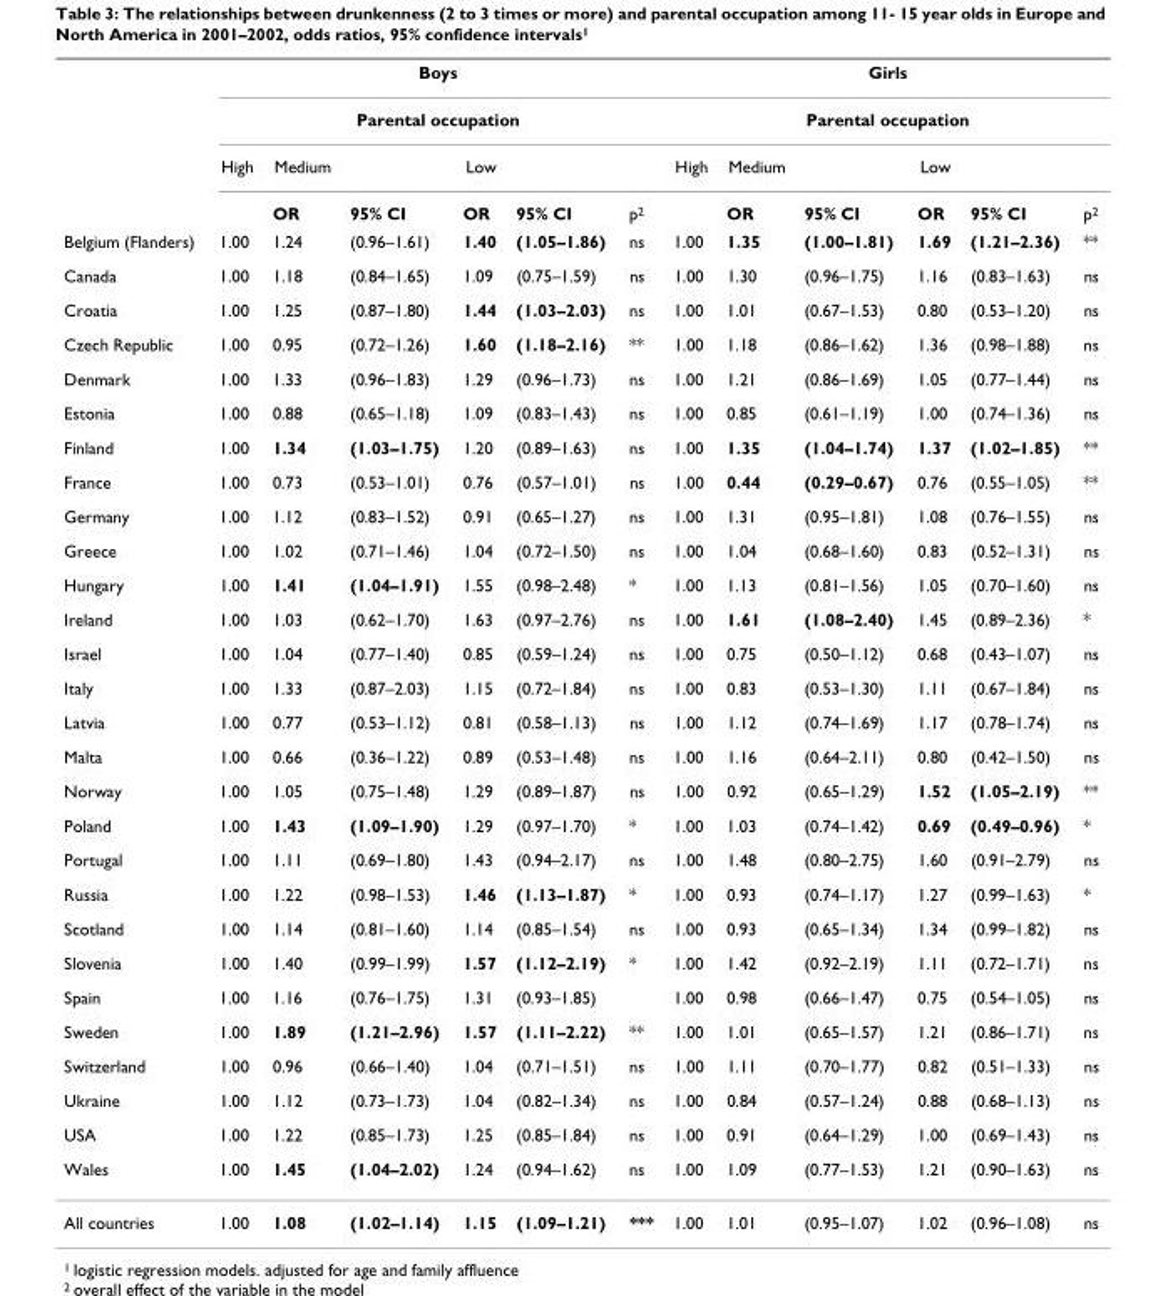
<table><thead><tr><td rowspan="32">Belgium (Flanders) Canada Croatia Czech Republic Denmark Estonia Finland France Germany Greece Hungary Ireland Israel Italy Latvia Malta Norway Poland Portugal Russia Scotland Slovenia Spain Sweden Switzerland Ukraine USA Wales</td><td rowspan="2" colspan="6">Boys Parental occupation</td><td rowspan="2" colspan="6">Girls Parental occupation</td></tr><tr></tr><tr><td rowspan="30">High 1.00 1.00 1.00 1.00 1.00 1.00 1.00 1.00 1.00 1.00 1.00 1.00 1.00 1.00 1.00 1.00 1.00 1.00 1.00 1.00 1.00 1.00 1.00 1.00 1.00 1.00 1.00 1.00</td><td rowspan="30">Medium OR 1.24 1.18 1.25 0.95 1.33 0.88 1.34 0.73 1.12 1.02 1.41 1.03 1.04 1.33 0.77 0.66 1.05 1.43 1.11 1.22 1.14 1.40 1.16 1.89 0.96 1.12 1.22 1.45</td><td rowspan="30">95% CI (0.96–1.61) (0.84–1.65) (0.87–1.80) (0.72–1.26) (0.96–1.83) (0.65–1.18) (1.03–1.75) (0.53–1.01) (0.83–1.52) (0.71–1.46) (1.04–1.91) (0.62–1.70) (0.77–1.40) (0.87–2.03) (0.53–1.12) (0.36–1.22) (0.75–1.48) (1.09–1.90) (0.69–1.80) (0.98–1.53) (0.81–1.60) (0.99–1.99) (0.76–1.75) (1.21–2.96) (0.66–1.40) (0.73–1.73) (0.85–1.73) (1.04–2.02)</td><td rowspan="30">Low OR 1.40 1.09 1.44 1.60 1.29 1.09 1.20 0.76 0.91 1.04 1.55 1.63 0.85 1.15 0.81 0.89 1.29 1.29 1.43 1.46 1.14 1.57 1.31 1.57 1.04 1.04 1.25 1.24</td><td rowspan="30">95% CI (1.05–1.86) (0.75–1.59) (1.03–2.03) (1.18–2.16) (0.96–1.73) (0.83–1.43) (0.89–1.63) (0.57–1.01) (0.65–1.27) (0.72–1.50) (0.98–2.48) (0.97–2.76) (0.59–1.24) (0.72–1.84) (0.58–1.13) (0.53–1.48) (0.89–1.87) (0.97–1.70) (0.94–2.17) (1.13–1.87) (0.85–1.54) (1.12–2.19) (0.93–1.85) (1.11–2.22) (0.71–1.51) (0.82–1.34) (0.85–1.84) (0.94–1.62)</td><td rowspan="30">p2 ns ns ns ** ns ns ns ns ns ns * ns ns ns ns ns ns * ns * ns * ** ns ns ns ns</td><td rowspan="30">High 1.00 1.00 1.00 1.00 1.00 1.00 1.00 1.00 1.00 1.00 1.00 1.00 1.00 1.00 1.00 1.00 1.00 1.00 1.00 1.00 1.00 1.00 1.00 1.00 1.00 1.00 1.00 1.00</td><td rowspan="30">Medium OR 1.35 1.30 1.01 1.18 1.21 0.85 1.35 0.44 1.31 1.04 1.13 1.61 0.75 0.83 1.12 1.16 0.92 1.03 1.48 0.93 0.93 1.42 0.98 1.01 1.11 0.84 0.91 1.09</td><td rowspan="30">95% CI (1.00–1.81) (0.96–1.75) (0.67–1.53) (0.86–1.62) (0.86–1.69) (0.61–1.19) (1.04–1.74) (0.29–0.67) (0.95–1.81) (0.68–1.60) (0.81–1.56) (1.08–2.40) (0.50–1.12) (0.53–1.30) (0.74–1.69) (0.64–2.11) (0.65–1.29) (0.74–1.42) (0.80–2.75) (0.74–1.17) (0.65–1.34) (0.92–2.19) (0.66–1.47) (0.65–1.57) (0.70–1.77) (0.57–1.24) (0.64–1.29) (0.77–1.53)</td><td rowspan="30">Low OR 1.69 1.16 0.80 1.36 1.05 1.00 1.37 0.76 1.08 0.83 1.05 1.45 0.68 1.11 1.17 0.80 1.52 0.69 1.60 1.27 1.34 1.11 0.75 1.21 0.82 0.88 1.00 1.21</td><td rowspan="30">95% CI (1.21–2.36) (0.83–1.63) (0.53–1.20) (0.98–1.88) (0.77–1.44) (0.74–1.36) (1.02–1.85) (0.55–1.05) (0.76–1.55) (0.52–1.31) (0.70–1.60) (0.89–2.36) (0.43–1.07) (0.67–1.84) (0.78–1.74) (0.42–1.50) (1.05–2.19) (0.49–0.96) (0.91–2.79) (0.99–1.63) (0.99–1.82) (0.72–1.71) (0.54–1.05) (0.86–1.71) (0.51–1.33) (0.68–1.13) (0.69–1.43) (0.90–1.63)</td><td rowspan="30">p2 ** ns ns ns ns ns ** ** ns ns ns * ns ns ns ns ** * ns * ns ns ns ns ns ns ns ns</td></tr><tr></tr><tr></tr><tr></tr><tr></tr><tr></tr><tr></tr><tr></tr><tr></tr><tr></tr><tr></tr><tr></tr><tr></tr><tr></tr><tr></tr><tr></tr><tr></tr><tr></tr><tr></tr><tr></tr><tr></tr><tr></tr><tr></tr><tr></tr><tr></tr><tr></tr><tr></tr><tr></tr><tr></tr><tr></tr></thead><tbody><tr><td>All countries</td><td>1.00</td><td>1.08</td><td>(1.02–1.14)</td><td>1.15</td><td>(1.09–1.21)</td><td>***</td><td>1.00</td><td>1.01</td><td>(0.95–1.07)</td><td>1.02</td><td>(0.96–1.08)</td><td>ns</td></tr></tbody></table>